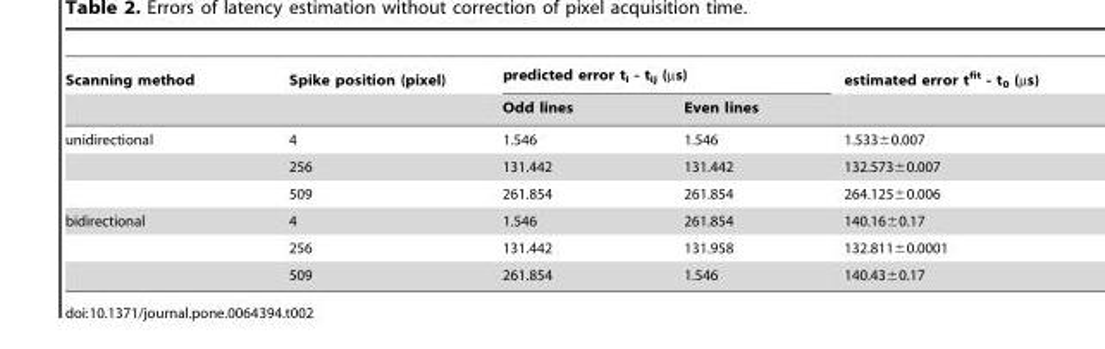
<table><thead><tr><td rowspan="2">Scanning method</td><td rowspan="2">Spike position (pixel)</td><td colspan="2">predicted error t<sub>i</sub> - t<sub>ij</sub> (µs)</td><td rowspan="2">estimated error t<sup>fit</sup> - t<sub>0</sub> (µs)</td></tr><tr><td>Odd lines</td><td>Even lines</td></tr></thead><tbody><tr><td rowspan="3">unidirectional</td><td>4</td><td>1.546</td><td>1.546</td><td>1.533±0.007</td></tr><tr><td>256</td><td>131.442</td><td>131.442</td><td>132.573±0.007</td></tr><tr><td>509</td><td>261.854</td><td>261.854</td><td>264.125±0.006</td></tr><tr><td rowspan="3">bidirectional</td><td>4</td><td>1.546</td><td>261.854</td><td>140.16±0.17</td></tr><tr><td>256</td><td>131.442</td><td>131.958</td><td>132.811±0.0001</td></tr><tr><td>509</td><td>261.854</td><td>1.546</td><td>140.43±0.17</td></tr></tbody></table>